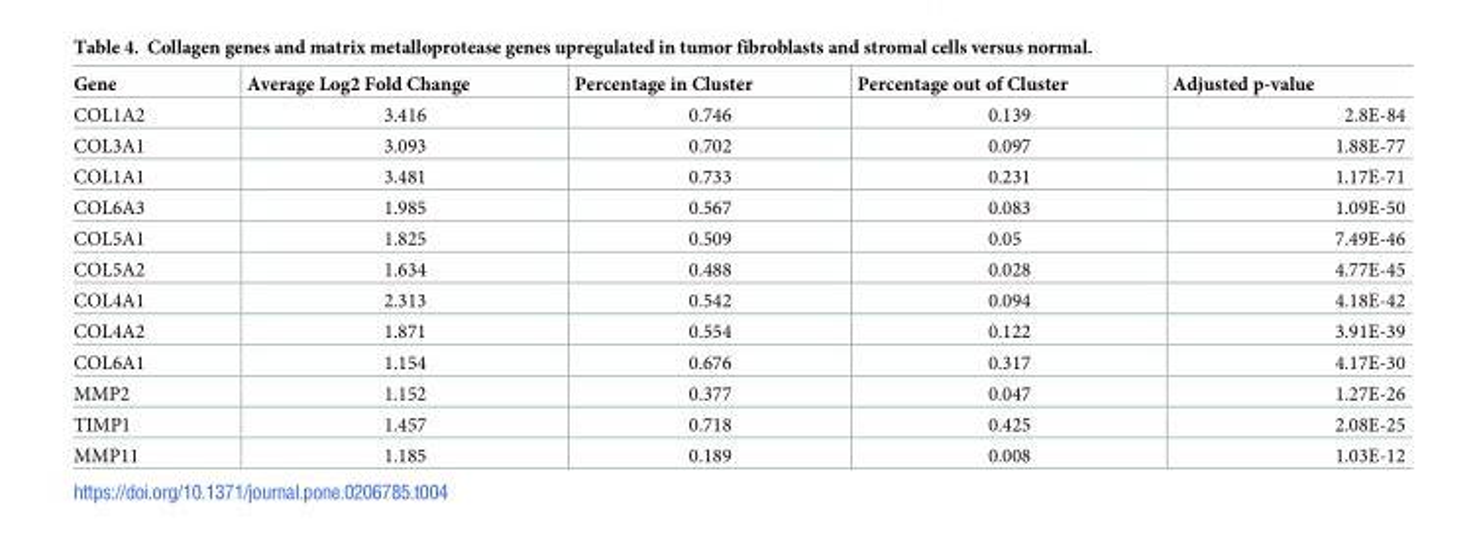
<table><thead><tr><td>Gene</td><td>Average Log2 Fold Change</td><td>Percentage in Cluster</td><td>Percentage out of Cluster</td><td>Adjusted p-value</td></tr></thead><tbody><tr><td>COL1A2</td><td>3.416</td><td>0.746</td><td>0.139</td><td>2.8E-84</td></tr><tr><td>COL3A1</td><td>3.093</td><td>0.702</td><td>0.097</td><td>1.88E-77</td></tr><tr><td>COL1A1</td><td>3.481</td><td>0.733</td><td>0.231</td><td>1.17E-71</td></tr><tr><td>COL6A3</td><td>1.985</td><td>0.567</td><td>0.083</td><td>1.09E-50</td></tr><tr><td>COL5A1</td><td>1.825</td><td>0.509</td><td>0.05</td><td>7.49E-46</td></tr><tr><td>COL5A2</td><td>1.634</td><td>0.488</td><td>0.028</td><td>4.77E-45</td></tr><tr><td>COL4A1</td><td>2.313</td><td>0.542</td><td>0.094</td><td>4.18E-42</td></tr><tr><td>COL4A2</td><td>1.871</td><td>0.554</td><td>0.122</td><td>3.91E-39</td></tr><tr><td>COL6A1</td><td>1.154</td><td>0.676</td><td>0.317</td><td>4.17E-30</td></tr><tr><td>MMP2</td><td>1.152</td><td>0.377</td><td>0.047</td><td>1.27E-26</td></tr><tr><td>TIMP1</td><td>1.457</td><td>0.718</td><td>0.425</td><td>2.08E-25</td></tr><tr><td>MMP11</td><td>1.185</td><td>0.189</td><td>0.008</td><td>1.03E-12</td></tr></tbody></table>